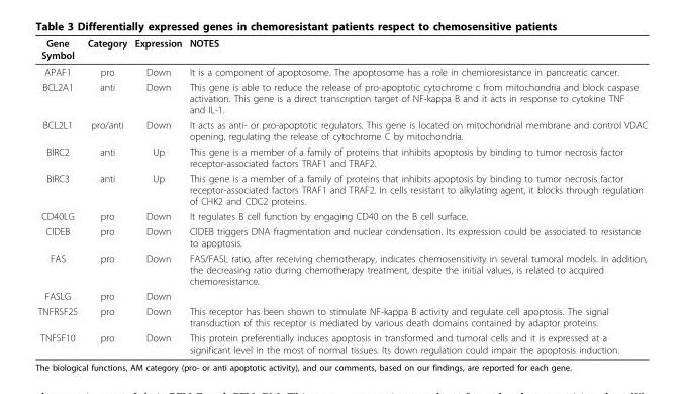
<table><thead><tr><td>Gene Symbol</td><td>Category</td><td>Expression</td><td>NOTES</td></tr></thead><tbody><tr><td>APAF1</td><td>pro</td><td>Down</td><td>It is a component of apoptosome. The apoptosome has a role in chemioresistance in pancreatic cancer.</td></tr><tr><td>BCL2A1</td><td>anti</td><td>Down</td><td>This gene is able to reduce the release of pro-apoptotic cytochrome c from mitochondria and block caspase activation. This gene is a direct transcription target of NF-kappa B and it acts in response to cytokine TNF and IL-1.</td></tr><tr><td>BCL2L1</td><td>pro/anti</td><td>Down</td><td>It acts as anti- or pro-apoptotic regulators. This gene is located on mitochondrial membrane and control VDAC opening, regulating the release of cytochrome C by mitochondria.</td></tr><tr><td>BIRC2</td><td>anti</td><td>Up</td><td>This gene is a member of a family of proteins that inhibits apoptosis by binding to tumor necrosis factor receptor-associated factors TRAF1 and TRAF2.</td></tr><tr><td>BIRC3</td><td>anti</td><td>Up</td><td>This gene is a member of a family of proteins that inhibits apoptosis by binding to tumor necrosis factor receptor-associated factors TRAF1 and TRAF2. In cells resistant to alkylating agent, it blocks through regulation of CHK2 and CDC2 proteins.</td></tr><tr><td>CD40LG</td><td>pro</td><td>Down</td><td>It regulates B cell function by engaging CD40 on the B cell surface.</td></tr><tr><td>CIDEB</td><td>pro</td><td>Down</td><td>CIDEB triggers DNA fragmentation and nuclear condensation. Its expression could be associated to resistance to apoptosis.</td></tr><tr><td>FAS</td><td>pro</td><td>Down</td><td>FAS/FASL ratio, after receiving chemotherapy, indicates chemosensitivity in several tumoral models. In addition, the decreasing ratio during chemotherapy treatment, despite the initial values, is related to acquired chemoresistance.</td></tr><tr><td>FASLG</td><td>pro</td><td>Down</td><td></td></tr><tr><td>TNFRSF25</td><td>pro</td><td>Down</td><td>This receptor has been shown to stimulate NF-kappa B activity and regulate cell apoptosis. The signal transduction of this receptor is mediated by various death domains contained by adaptor proteins.</td></tr><tr><td>TNFSF10</td><td>pro</td><td>Down</td><td>This protein preferentially induces apoptosis in transformed and tumoral cells and it is expressed at a significant level in the most of normal tissues. Its down regulation could impair the apoptosis induction.</td></tr></tbody></table>